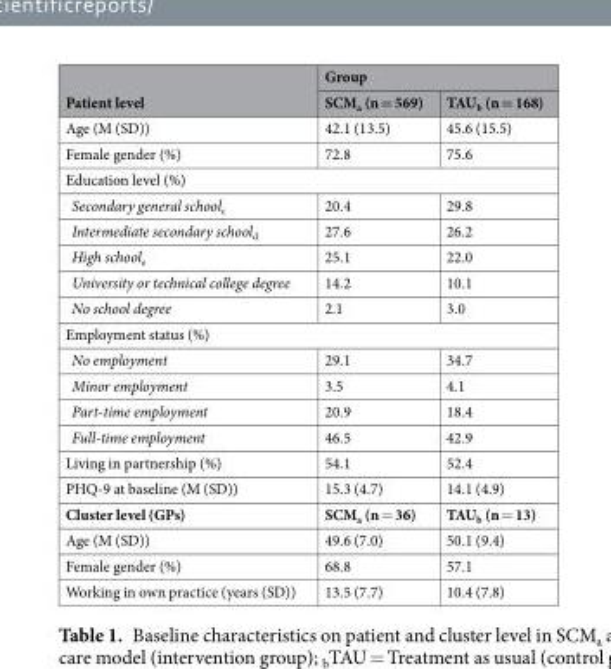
<table><thead><tr><td rowspan="2">Patient level</td><td colspan="2">Group</td></tr><tr><td>SCM<sub>a</sub> (n = 569)</td><td>TAU<sub>b</sub> (n = 168)</td></tr></thead><tbody><tr><td>Age (M (SD))</td><td>42.1 (13.5)</td><td>45.6 (15.5)</td></tr><tr><td>Female gender (%)</td><td>72.8</td><td>75.6</td></tr><tr><td colspan="3">Education level (%)</td></tr><tr><td>Secondary general school<sub>c</sub></td><td>20.4</td><td>29.8</td></tr><tr><td>Intermediate secondary school<sub>d</sub></td><td>27.6</td><td>26.2</td></tr><tr><td>High school<sub>e</sub></td><td>25.1</td><td>22.0</td></tr><tr><td>University or technical college degree</td><td>14.2</td><td>10.1</td></tr><tr><td>No school degree</td><td>2.1</td><td>3.0</td></tr><tr><td colspan="3">Employment status (%)</td></tr><tr><td>No employment</td><td>29.1</td><td>34.7</td></tr><tr><td>Minor employment</td><td>3.5</td><td>4.1</td></tr><tr><td>Part-time employment</td><td>20.9</td><td>18.4</td></tr><tr><td>Full-time employment</td><td>46.5</td><td>42.9</td></tr><tr><td>Living in partnership (%)</td><td>54.1</td><td>52.4</td></tr><tr><td>PHQ-9 at baseline (M (SD))</td><td>15.3 (4.7)</td><td>14.1 (4.9)</td></tr><tr><td>Cluster level (GPs)</td><td>SCM<sub>a</sub> (n = 36)</td><td>TAU<sub>b</sub> (n = 13)</td></tr><tr><td>Age (M (SD))</td><td>49.6 (7.0)</td><td>50.1 (9.4)</td></tr><tr><td>Female gender (%)</td><td>68.8</td><td>57.1</td></tr><tr><td>Working in own practice (years (SD))</td><td>13.5 (7.7)</td><td>10.4 (7.8)</td></tr></tbody></table>